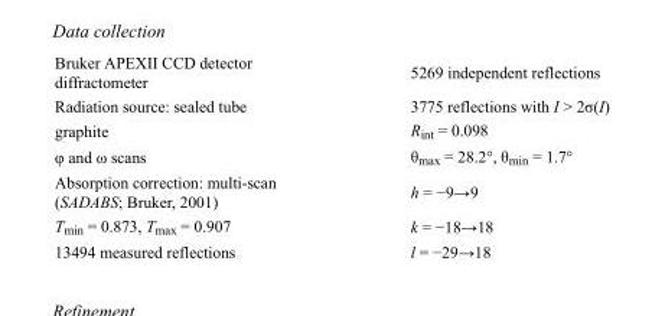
<table><tbody><tr><td>Bruker APEXII CCD detector diffractometer</td><td>5269 independent reflections</td></tr><tr><td>Radiation source: sealed tube</td><td>3775 reflections with I &gt; 2σ(I)</td></tr><tr><td>graphite</td><td>R<sub>int</sub> = 0.098</td></tr><tr><td>φ and ω scans</td><td>θ<sub>max</sub> = 28.2°, θ<sub>min</sub> = 1.7°</td></tr><tr><td>Absorption correction: multi-scan (SADABS; Bruker, 2001)</td><td>h = −9→9</td></tr><tr><td>T<sub>min</sub> = 0.873, T<sub>max</sub> = 0.907</td><td>k = −18→18</td></tr><tr><td>13494 measured reflections</td><td>l = −29→18</td></tr></tbody></table>